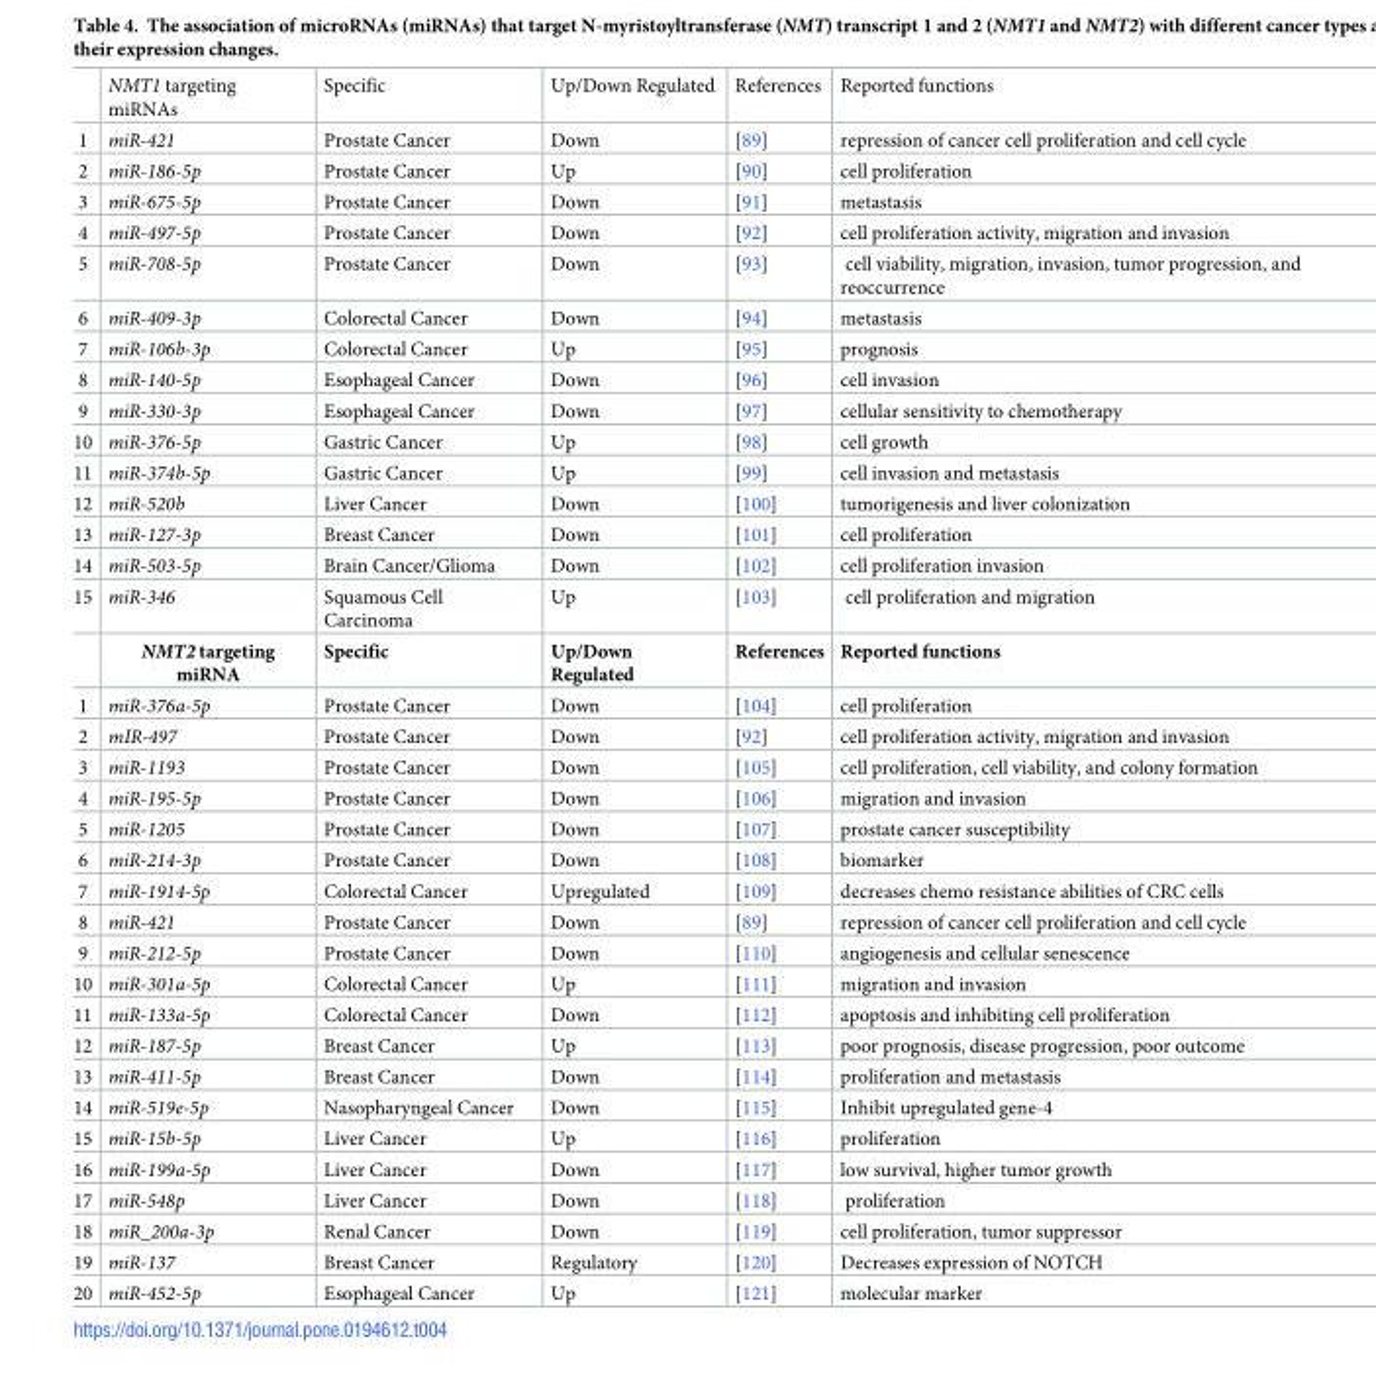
<table><thead><tr><td></td><td>NMT1 targeting miRNAs</td><td>Specific</td><td>Up/Down Regulated</td><td>References</td><td>Reported functions</td></tr></thead><tbody><tr><td>1</td><td>miR-421</td><td>Prostate Cancer</td><td>Down</td><td>[89]</td><td>repression of cancer cell proliferation and cell cycle</td></tr><tr><td>2</td><td>miR-186-5p</td><td>Prostate Cancer</td><td>Up</td><td>[90]</td><td>cell proliferation</td></tr><tr><td>3</td><td>miR-675-5p</td><td>Prostate Cancer</td><td>Down</td><td>[91]</td><td>metastasis</td></tr><tr><td>4</td><td>miR-497-5p</td><td>Prostate Cancer</td><td>Down</td><td>[92]</td><td>cell proliferation activity, migration and invasion</td></tr><tr><td>5</td><td>miR-708-5p</td><td>Prostate Cancer</td><td>Down</td><td>[93]</td><td>cell viability, migration, invasion, tumor progression, and reoccurrence</td></tr><tr><td>6</td><td>miR-409-3p</td><td>Colorectal Cancer</td><td>Down</td><td>[94]</td><td>metastasis</td></tr><tr><td>7</td><td>miR-106b-3p</td><td>Colorectal Cancer</td><td>Up</td><td>[95]</td><td>prognosis</td></tr><tr><td>8</td><td>miR-140-5p</td><td>Esophageal Cancer</td><td>Down</td><td>[96]</td><td>cell invasion</td></tr><tr><td>9</td><td>miR-330-3p</td><td>Esophageal Cancer</td><td>Down</td><td>[97]</td><td>cellular sensitivity to chemotherapy</td></tr><tr><td>10</td><td>miR-376-5p</td><td>Gastric Cancer</td><td>Up</td><td>[98]</td><td>cell growth</td></tr><tr><td>11</td><td>miR-374b-5p</td><td>Gastric Cancer</td><td>Up</td><td>[99]</td><td>cell invasion and metastasis</td></tr><tr><td>12</td><td>miR-520b</td><td>Liver Cancer</td><td>Down</td><td>[100]</td><td>tumorigenesis and liver colonization</td></tr><tr><td>13</td><td>miR-127-3p</td><td>Breast Cancer</td><td>Down</td><td>[101]</td><td>cell proliferation</td></tr><tr><td>14</td><td>miR-503-5p</td><td>Brain Cancer/Glioma</td><td>Down</td><td>[102]</td><td>cell proliferation invasion</td></tr><tr><td rowspan="2">15</td><td>miR-346</td><td>Squamous Cell Carcinoma</td><td>Up</td><td>[103]</td><td>cell proliferation and migration</td></tr><tr><td>NMT2 targeting miRNA</td><td>Specific</td><td>Up/Down Regulated</td><td>References</td><td>Reported functions</td></tr><tr><td>1</td><td>miR-376a-5p</td><td>Prostate Cancer</td><td>Down</td><td>[104]</td><td>cell proliferation</td></tr><tr><td>2</td><td>mIR-497</td><td>Prostate Cancer</td><td>Down</td><td>[92]</td><td>cell proliferation activity, migration and invasion</td></tr><tr><td>3</td><td>miR-1193</td><td>Prostate Cancer</td><td>Down</td><td>[105]</td><td>cell proliferation, cell viability, and colony formation</td></tr><tr><td>4</td><td>miR-195-5p</td><td>Prostate Cancer</td><td>Down</td><td>[106]</td><td>migration and invasion</td></tr><tr><td>5</td><td>miR-1205</td><td>Prostate Cancer</td><td>Down</td><td>[107]</td><td>prostate cancer susceptibility</td></tr><tr><td>6</td><td>miR-214-3p</td><td>Prostate Cancer</td><td>Down</td><td>[108]</td><td>biomarker</td></tr><tr><td>7</td><td>miR-1914-5p</td><td>Colorectal Cancer</td><td>Upregulated</td><td>[109]</td><td>decreases chemo resistance abilities of CRC cells</td></tr><tr><td>8</td><td>miR-421</td><td>Prostate Cancer</td><td>Down</td><td>[89]</td><td>repression of cancer cell proliferation and cell cycle</td></tr><tr><td>9</td><td>miR-212-5p</td><td>Prostate Cancer</td><td>Down</td><td>[110]</td><td>angiogenesis and cellular senescence</td></tr><tr><td>10</td><td>miR-301a-5p</td><td>Colorectal Cancer</td><td>Up</td><td>[111]</td><td>migration and invasion</td></tr><tr><td>11</td><td>miR-133a-5p</td><td>Colorectal Cancer</td><td>Down</td><td>[112]</td><td>apoptosis and inhibiting cell proliferation</td></tr><tr><td>12</td><td>miR-187-5p</td><td>Breast Cancer</td><td>Up</td><td>[113]</td><td>poor prognosis, disease progression, poor outcome</td></tr><tr><td>13</td><td>miR-411-5p</td><td>Breast Cancer</td><td>Down</td><td>[114]</td><td>proliferation and metastasis</td></tr><tr><td>14</td><td>miR-519e-5p</td><td>Nasopharyngeal Cancer</td><td>Down</td><td>[115]</td><td>Inhibit upregulated gene-4</td></tr><tr><td>15</td><td>miR-15b-5p</td><td>Liver Cancer</td><td>Up</td><td>[116]</td><td>proliferation</td></tr><tr><td>16</td><td>miR-199a-5p</td><td>Liver Cancer</td><td>Down</td><td>[117]</td><td>low survival, higher tumor growth</td></tr><tr><td>17</td><td>miR-548p</td><td>Liver Cancer</td><td>Down</td><td>[118]</td><td>proliferation</td></tr><tr><td>18</td><td>miR_200a-3p</td><td>Renal Cancer</td><td>Down</td><td>[119]</td><td>cell proliferation, tumor suppressor</td></tr><tr><td>19</td><td>miR-137</td><td>Breast Cancer</td><td>Regulatory</td><td>[120]</td><td>Decreases expression of NOTCH</td></tr><tr><td>20</td><td>miR-452-5p</td><td>Esophageal Cancer</td><td>Up</td><td>[121]</td><td>molecular marker</td></tr></tbody></table>